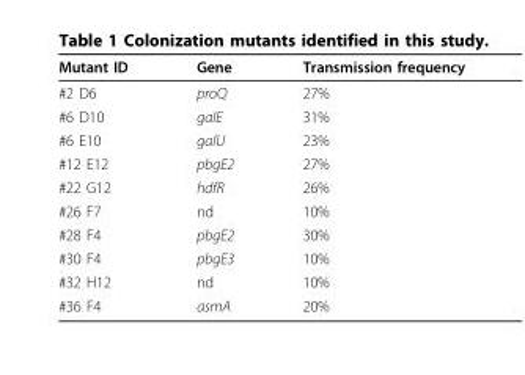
<table><thead><tr><td>Mutant ID</td><td>Gene</td><td>Transmission frequency</td></tr></thead><tbody><tr><td>#2 D6</td><td>proQ</td><td>27%</td></tr><tr><td>#6 D10</td><td>galE</td><td>31%</td></tr><tr><td>#6 E10</td><td>galU</td><td>23%</td></tr><tr><td>#12 E12</td><td>pbgE2</td><td>27%</td></tr><tr><td>#22 G12</td><td>hdfR</td><td>26%</td></tr><tr><td>#26 F7</td><td>nd</td><td>10%</td></tr><tr><td>#28 F4</td><td>pbgE2</td><td>30%</td></tr><tr><td>#30 F4</td><td>pbgE3</td><td>10%</td></tr><tr><td>#32 H12</td><td>nd</td><td>10%</td></tr><tr><td>#36 F4</td><td>asmA</td><td>20%</td></tr></tbody></table>